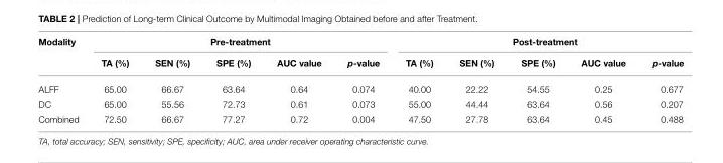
<table><thead><tr><td rowspan="2">Modality</td><td colspan="5">Pre-treatment</td><td colspan="5">Post-treatment</td></tr><tr><td>TA (%)</td><td>SEN (%)</td><td>SPE (%)</td><td>AUC value</td><td>p-value</td><td>TA (%)</td><td>SEN (%)</td><td>SPE (%)</td><td>AUC value</td><td>p-value</td></tr></thead><tbody><tr><td>ALFF</td><td>65.00</td><td>66.67</td><td>63.64</td><td>0.64</td><td>0.074</td><td>40.00</td><td>22.22</td><td>54.55</td><td>0.25</td><td>0.677</td></tr><tr><td>DC</td><td>65.00</td><td>55.56</td><td>72.73</td><td>0.61</td><td>0.073</td><td>55.00</td><td>44.44</td><td>63.64</td><td>0.56</td><td>0.207</td></tr><tr><td>Combined</td><td>72.50</td><td>66.67</td><td>77.27</td><td>0.72</td><td>0.004</td><td>47.50</td><td>27.78</td><td>63.64</td><td>0.45</td><td>0.488</td></tr></tbody></table>